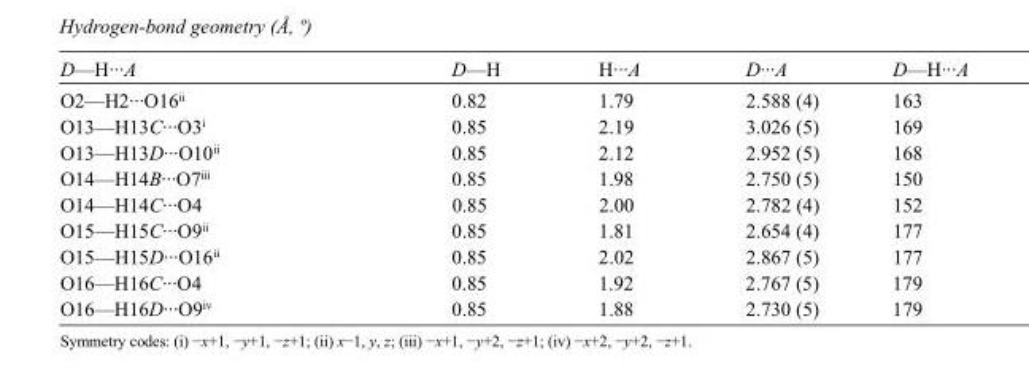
<table><tbody><tr><td>D—H···A</td><td>D—H</td><td>H···A</td><td>D···A</td><td>D—H···A</td></tr><tr><td>O2—H2···O16<sup>ii</sup></td><td>0.82</td><td>1.79</td><td>2.588 (4)</td><td>163</td></tr><tr><td>O13—H13C···O3<sup>i</sup></td><td>0.85</td><td>2.19</td><td>3.026 (5)</td><td>169</td></tr><tr><td>O13—H13D···O10<sup>ii</sup></td><td>0.85</td><td>2.12</td><td>2.952 (5)</td><td>168</td></tr><tr><td>O14—H14B···O7<sup>iii</sup></td><td>0.85</td><td>1.98</td><td>2.750 (5)</td><td>150</td></tr><tr><td>O14—H14C···O4</td><td>0.85</td><td>2.00</td><td>2.782 (4)</td><td>152</td></tr><tr><td>O15—H15C···O9<sup>ii</sup></td><td>0.85</td><td>1.81</td><td>2.654 (4)</td><td>177</td></tr><tr><td>O15—H15D···O16<sup>ii</sup></td><td>0.85</td><td>2.02</td><td>2.867 (5)</td><td>177</td></tr><tr><td>O16—H16C···O4</td><td>0.85</td><td>1.92</td><td>2.767 (5)</td><td>179</td></tr><tr><td>O16—H16D···O9<sup>iv</sup></td><td>0.85</td><td>1.88</td><td>2.730 (5)</td><td>179</td></tr></tbody></table>